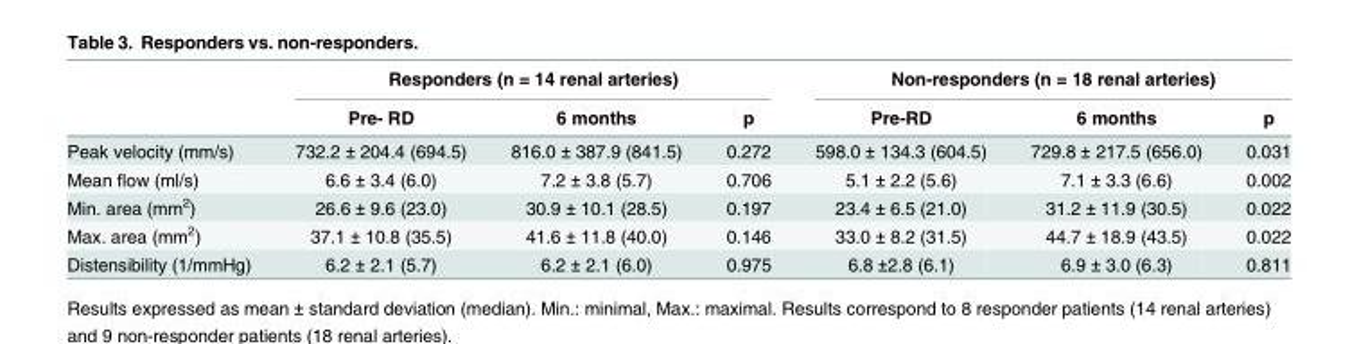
<table><thead><tr><td rowspan="2"></td><td colspan="3">Responders (n = 14 renal arteries)</td><td colspan="3">Non-responders (n = 18 renal arteries)</td></tr><tr><td>Pre- RD</td><td>6 months</td><td>p</td><td>Pre-RD</td><td>6 months</td><td>p</td></tr></thead><tbody><tr><td>Peak velocity (mm/s)</td><td>732.2 ± 204.4 (694.5)</td><td>816.0 ± 387.9 (841.5)</td><td>0.272</td><td>598.0 ± 134.3 (604.5)</td><td>729.8 ± 217.5 (656.0)</td><td>0.031</td></tr><tr><td>Mean flow (ml/s)</td><td>6.6 ± 3.4 (6.0)</td><td>7.2 ± 3.8 (5.7)</td><td>0.706</td><td>5.1 ± 2.2 (5.6)</td><td>7.1 ± 3.3 (6.6)</td><td>0.002</td></tr><tr><td>Min. area (mm<sup>2</sup>)</td><td>26.6 ± 9.6 (23.0)</td><td>30.9 ± 10.1 (28.5)</td><td>0.197</td><td>23.4 ± 6.5 (21.0)</td><td>31.2 ± 11.9 (30.5)</td><td>0.022</td></tr><tr><td>Max. area (mm<sup>2</sup>)</td><td>37.1 ± 10.8 (35.5)</td><td>41.6 ± 11.8 (40.0)</td><td>0.146</td><td>33.0 ± 8.2 (31.5)</td><td>44.7 ± 18.9 (43.5)</td><td>0.022</td></tr><tr><td>Distensibility (1/mmHg)</td><td>6.2 ± 2.1 (5.7)</td><td>6.2 ± 2.1 (6.0)</td><td>0.975</td><td>6.8 ±2.8 (6.1)</td><td>6.9 ± 3.0 (6.3)</td><td>0.811</td></tr></tbody></table>